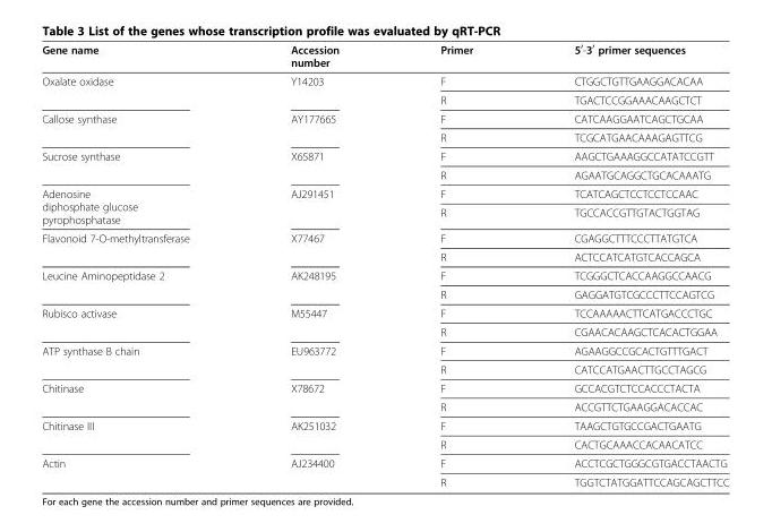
<table><thead><tr><td>Gene name</td><td>Accession number</td><td>Primer</td><td>5<sup>′</sup>-3<sup>′</sup> primer sequences</td></tr></thead><tbody><tr><td rowspan="2">Oxalate oxidase</td><td rowspan="2">Y14203</td><td>F</td><td>CTGGCTGTTGAAGGACACAA</td></tr><tr><td>R</td><td>TGACTCCGGAAACAAGCTCT</td></tr><tr><td rowspan="2">Callose synthase</td><td rowspan="2">AY177665</td><td>F</td><td>CATCAAGGAATCAGCTGCAA</td></tr><tr><td>R</td><td>TCGCATGAACAAAGAGTTCG</td></tr><tr><td rowspan="2">Sucrose synthase</td><td rowspan="2">X65871</td><td>F</td><td>AAGCTGAAAGGCCATATCCGTT</td></tr><tr><td>R</td><td>AGAATGCAGGCTGCACAAATG</td></tr><tr><td rowspan="2">Adenosine diphosphate glucose pyrophosphatase</td><td rowspan="2">AJ291451</td><td>F</td><td>TCATCAGCTCCTCCTCCAAC</td></tr><tr><td>R</td><td>TGCCACCGTTGTACTGGTAG</td></tr><tr><td rowspan="2">Flavonoid 7-O-methyltransferase</td><td rowspan="2">X77467</td><td>F</td><td>CGAGGCTTTCCCTTATGTCA</td></tr><tr><td>R</td><td>ACTCCATCATGTCACCAGCA</td></tr><tr><td rowspan="2">Leucine Aminopeptidase 2</td><td rowspan="2">AK248195</td><td>F</td><td>TCGGGCTCACCAAGGCCAACG</td></tr><tr><td>R</td><td>GAGGATGTCGCCCTTCCAGTCG</td></tr><tr><td rowspan="2">Rubisco activase</td><td rowspan="2">M55447</td><td>F</td><td>TCCAAAAACTTCATGACCCTGC</td></tr><tr><td>R</td><td>CGAACACAAGCTCACACTGGAA</td></tr><tr><td rowspan="2">ATP synthase B chain</td><td rowspan="2">EU963772</td><td>F</td><td>AGAAGGCCGCACTGTTTGACT</td></tr><tr><td>R</td><td>CATCCATGAACTTGCCTAGCG</td></tr><tr><td rowspan="2">Chitinase</td><td rowspan="2">X78672</td><td>F</td><td>GCCACGTCTCCACCCTACTA</td></tr><tr><td>R</td><td>ACCGTTCTGAAGGACACCAC</td></tr><tr><td rowspan="2">Chitinase III</td><td rowspan="2">AK251032</td><td>F</td><td>TAAGCTGTGCCGACTGAATG</td></tr><tr><td>R</td><td>CACTGCAAACCACAACATCC</td></tr><tr><td rowspan="2">Actin</td><td rowspan="2">AJ234400</td><td>F</td><td>ACCTCGCTGGGCGTGACCTAACTG</td></tr><tr><td>R</td><td>TGGTCTATGGATTCCAGCAGCTTCC</td></tr></tbody></table>